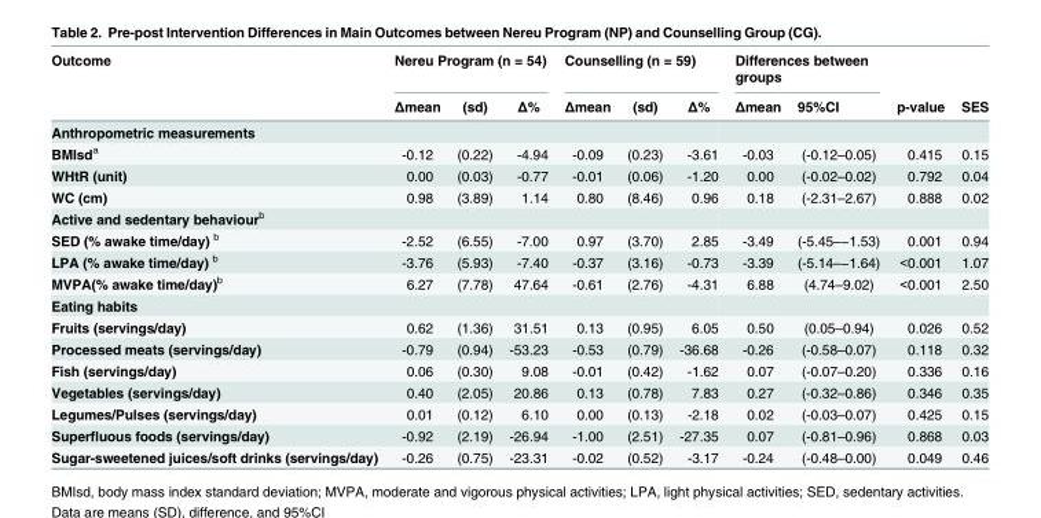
<table><thead><tr><td rowspan="2">Outcome</td><td colspan="3">Nereu Program (n = 54)</td><td colspan="3">Counselling (n = 59)</td><td colspan="2">Differences between groups</td><td rowspan="2">p-value</td><td rowspan="2">SES</td></tr><tr><td>Δmean</td><td>(sd)</td><td>Δ%</td><td>Δmean</td><td>(sd)</td><td>Δ%</td><td>Δmean</td><td>95%CI</td></tr></thead><tbody><tr><td colspan="11">Anthropometric measurements</td></tr><tr><td>BMIsd<sup>a</sup></td><td>-0.12</td><td>(0.22)</td><td>-4.94</td><td>-0.09</td><td>(0.23)</td><td>-3.61</td><td>-0.03</td><td>(-0.12–0.05)</td><td>0.415</td><td>0.15</td></tr><tr><td>WHtR (unit)</td><td>0.00</td><td>(0.03)</td><td>-0.77</td><td>-0.01</td><td>(0.06)</td><td>-1.20</td><td>0.00</td><td>(-0.02–0.02)</td><td>0.792</td><td>0.04</td></tr><tr><td>WC (cm)</td><td>0.98</td><td>(3.89)</td><td>1.14</td><td>0.80</td><td>(8.46)</td><td>0.96</td><td>0.18</td><td>(-2.31–2.67)</td><td>0.888</td><td>0.02</td></tr><tr><td colspan="11">Active and sedentary behaviour<sup>b</sup></td></tr><tr><td>SED (% awake time/day) <sup>b</sup></td><td>-2.52</td><td>(6.55)</td><td>-7.00</td><td>0.97</td><td>(3.70)</td><td>2.85</td><td>-3.49</td><td>(-5.45–−1.53)</td><td>0.001</td><td>0.94</td></tr><tr><td>LPA (% awake time/day) <sup>b</sup></td><td>-3.76</td><td>(5.93)</td><td>-7.40</td><td>-0.37</td><td>(3.16)</td><td>-0.73</td><td>-3.39</td><td>(-5.14–−1.64)</td><td>&lt;0.001</td><td>1.07</td></tr><tr><td>MVPA(% awake time/day)<sup>b</sup></td><td>6.27</td><td>(7.78)</td><td>47.64</td><td>-0.61</td><td>(2.76)</td><td>-4.31</td><td>6.88</td><td>(4.74–9.02)</td><td>&lt;0.001</td><td>2.50</td></tr><tr><td colspan="11">Eating habits</td></tr><tr><td>Fruits (servings/day)</td><td>0.62</td><td>(1.36)</td><td>31.51</td><td>0.13</td><td>(0.95)</td><td>6.05</td><td>0.50</td><td>(0.05–0.94)</td><td>0.026</td><td>0.52</td></tr><tr><td>Processed meats (servings/day)</td><td>-0.79</td><td>(0.94)</td><td>-53.23</td><td>-0.53</td><td>(0.79)</td><td>-36.68</td><td>-0.26</td><td>(-0.58–0.07)</td><td>0.118</td><td>0.32</td></tr><tr><td>Fish (servings/day)</td><td>0.06</td><td>(0.30)</td><td>9.08</td><td>-0.01</td><td>(0.42)</td><td>-1.62</td><td>0.07</td><td>(-0.07–0.20)</td><td>0.336</td><td>0.16</td></tr><tr><td>Vegetables (servings/day)</td><td>0.40</td><td>(2.05)</td><td>20.86</td><td>0.13</td><td>(0.78)</td><td>7.83</td><td>0.27</td><td>(-0.32–0.86)</td><td>0.346</td><td>0.35</td></tr><tr><td>Legumes/Pulses (servings/day)</td><td>0.01</td><td>(0.12)</td><td>6.10</td><td>0.00</td><td>(0.13)</td><td>-2.18</td><td>0.02</td><td>(-0.03–0.07)</td><td>0.425</td><td>0.15</td></tr><tr><td>Superfluous foods (servings/day)</td><td>-0.92</td><td>(2.19)</td><td>-26.94</td><td>-1.00</td><td>(2.51)</td><td>-27.35</td><td>0.07</td><td>(-0.81–0.96)</td><td>0.868</td><td>0.03</td></tr><tr><td>Sugar-sweetened juices/soft drinks (servings/day)</td><td>-0.26</td><td>(0.75)</td><td>-23.31</td><td>-0.02</td><td>(0.52)</td><td>-3.17</td><td>-0.24</td><td>(-0.48–0.00)</td><td>0.049</td><td>0.46</td></tr></tbody></table>